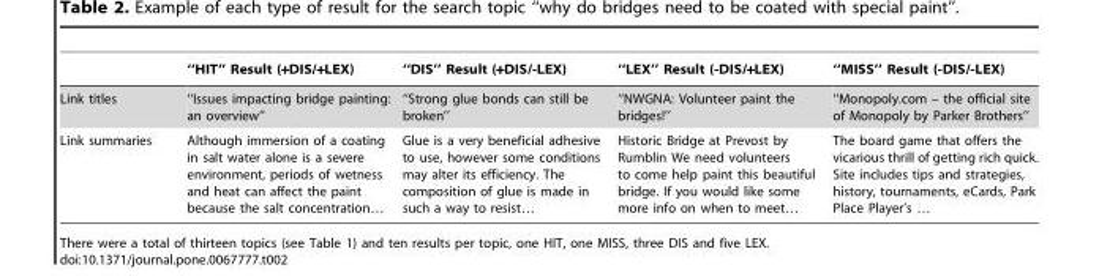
<table><thead><tr><td></td><td>‘‘HIT’’ Result (+DIS/+LEX)</td><td>‘‘DIS’’ Result (+DIS/-LEX)</td><td>‘‘LEX’’ Result (-DIS/+LEX)</td><td>‘‘MISS’’ Result (-DIS/-LEX)</td></tr></thead><tbody><tr><td>Link titles</td><td>‘‘Issues impacting bridge painting: an overview’’</td><td>‘‘Strong glue bonds can still be broken’’</td><td>‘‘NWGNA: Volunteer paint the bridges!’’</td><td>‘‘Monopoly.com – the official site of Monopoly by Parker Brothers’’</td></tr><tr><td>Link summaries</td><td>Although immersion of a coating in salt water alone is a severe environment, periods of wetness and heat can affect the paint because the salt concentration…</td><td>Glue is a very beneficial adhesive to use, however some conditions may alter its efficiency. The composition of glue is made in such a way to resist…</td><td>Historic Bridge at Prevost by Rumblin We need volunteers to come help paint this beautiful bridge. If you would like some more info on when to meet…</td><td>The board game that offers the vicarious thrill of getting rich quick. Site includes tips and strategies, history, tournaments, eCards, Park Place Player’s …</td></tr></tbody></table>